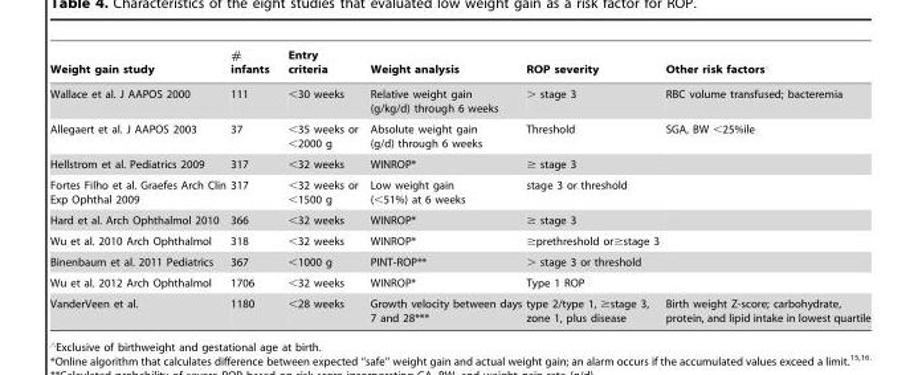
<table><thead><tr><td>Weight gain study</td><td># infants</td><td>Entry criteria</td><td>Weight analysis</td><td>ROP severity</td><td>Other risk factors‘</td></tr></thead><tbody><tr><td>Wallace et al. J AAPOS 2000</td><td>111</td><td>&lt;30 weeks</td><td>Relative weight gain (g/kg/d) through 6 weeks</td><td>&gt; stage 3</td><td>RBC volume transfused; bacteremia</td></tr><tr><td>Allegaert et al. J AAPOS 2003</td><td>37</td><td>&lt;35 weeks or &lt;2000 g</td><td>Absolute weight gain (g/d) through 6 weeks</td><td>Threshold</td><td>SGA, BW &lt;25%ile</td></tr><tr><td>Hellstrom et al. Pediatrics 2009</td><td>317</td><td>&lt;32 weeks</td><td>WINROP*</td><td>≥ stage 3</td><td></td></tr><tr><td>Fortes Filho et al. Graefes Arch Clin Exp Ophthal 2009</td><td>317</td><td>&lt;32 weeks or &lt;1500 g</td><td>Low weight gain (&lt;51%) at 6 weeks</td><td>stage 3 or threshold</td><td></td></tr><tr><td>Hard et al. Arch Ophthalmol 2010</td><td>366</td><td>&lt;32 weeks</td><td>WINROP*</td><td>≥ stage 3</td><td></td></tr><tr><td>Wu et al. 2010 Arch Ophthalmol</td><td>318</td><td>&lt;32 weeks</td><td>WINROP*</td><td>≥prethreshold or≥stage 3</td><td></td></tr><tr><td>Binenbaum et al. 2011 Pediatrics</td><td>367</td><td>&lt;1000 g</td><td>PINT-ROP**</td><td>&gt; stage 3 or threshold</td><td></td></tr><tr><td>Wu et al. 2012 Arch Ophthalmol</td><td>1706</td><td>&lt;32 weeks</td><td>WINROP*</td><td>Type 1 ROP</td><td></td></tr><tr><td>VanderVeen et al.</td><td>1180</td><td>&lt;28 weeks</td><td>Growth velocity between days 7 and 28***</td><td>type 2/type 1, ≥stage 3, zone 1, plus disease</td><td>Birth weight Z-score; carbohydrate, protein, and lipid intake in lowest quartile</td></tr></tbody></table>